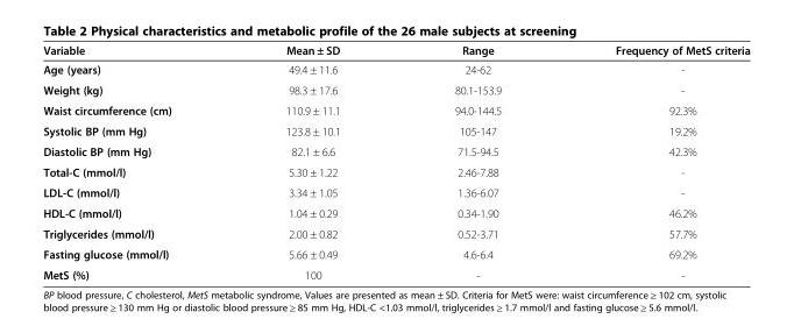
<table><thead><tr><td>Variable</td><td>Mean ± SD</td><td>Range</td><td>Frequency of MetS criteria</td></tr></thead><tbody><tr><td>Age (years)</td><td>49.4 ± 11.6</td><td>24-62</td><td>-</td></tr><tr><td>Weight (kg)</td><td>98.3 ± 17.6</td><td>80.1-153.9</td><td>-</td></tr><tr><td>Waist circumference (cm)</td><td>110.9 ± 11.1</td><td>94.0-144.5</td><td>92.3%</td></tr><tr><td>Systolic BP (mm Hg)</td><td>123.8 ± 10.1</td><td>105-147</td><td>19.2%</td></tr><tr><td>Diastolic BP (mm Hg)</td><td>82.1 ± 6.6</td><td>71.5-94.5</td><td>42.3%</td></tr><tr><td>Total-C (mmol/l)</td><td>5.30 ± 1.22</td><td>2.46-7.88</td><td>-</td></tr><tr><td>LDL-C (mmol/l)</td><td>3.34 ± 1.05</td><td>1.36-6.07</td><td>-</td></tr><tr><td>HDL-C (mmol/l)</td><td>1.04 ± 0.29</td><td>0.34-1.90</td><td>46.2%</td></tr><tr><td>Triglycerides (mmol/l)</td><td>2.00 ± 0.82</td><td>0.52-3.71</td><td>57.7%</td></tr><tr><td>Fasting glucose (mmol/l)</td><td>5.66 ± 0.49</td><td>4.6-6.4</td><td>69.2%</td></tr><tr><td>MetS (%)</td><td>100</td><td>-</td><td>-</td></tr></tbody></table>